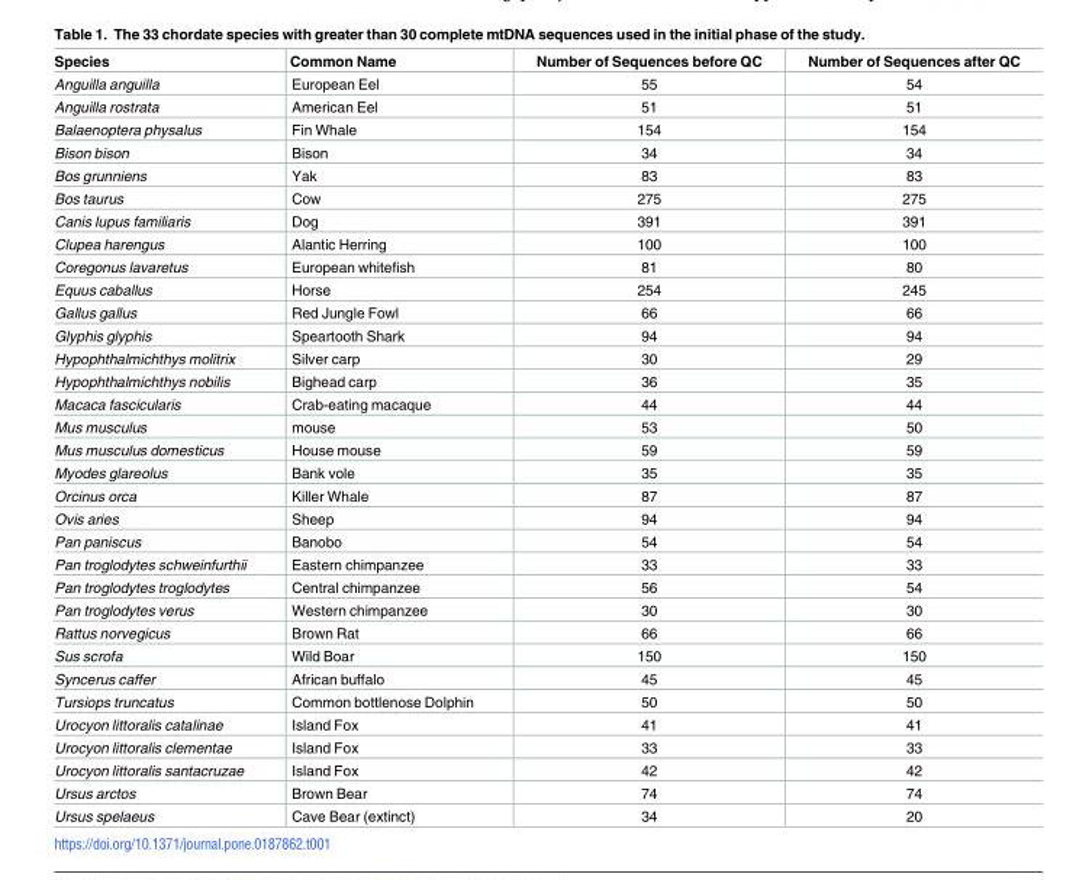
<table><thead><tr><td>Species</td><td>Common Name</td><td>Number of Sequences before QC</td><td>Number of Sequences after QC</td></tr></thead><tbody><tr><td>Anguilla anguilla</td><td>European Eel</td><td>55</td><td>54</td></tr><tr><td>Anguilla rostrata</td><td>American Eel</td><td>51</td><td>51</td></tr><tr><td>Balaenoptera physalus</td><td>Fin Whale</td><td>154</td><td>154</td></tr><tr><td>Bison bison</td><td>Bison</td><td>34</td><td>34</td></tr><tr><td>Bos grunniens</td><td>Yak</td><td>83</td><td>83</td></tr><tr><td>Bos taurus</td><td>Cow</td><td>275</td><td>275</td></tr><tr><td>Canis lupus familiaris</td><td>Dog</td><td>391</td><td>391</td></tr><tr><td>Clupea harengus</td><td>Alantic Herring</td><td>100</td><td>100</td></tr><tr><td>Coregonus lavaretus</td><td>European whitefish</td><td>81</td><td>80</td></tr><tr><td>Equus caballus</td><td>Horse</td><td>254</td><td>245</td></tr><tr><td>Gallus gallus</td><td>Red Jungle Fowl</td><td>66</td><td>66</td></tr><tr><td>Glyphis glyphis</td><td>Speartooth Shark</td><td>94</td><td>94</td></tr><tr><td>Hypophthalmichthys molitrix</td><td>Silver carp</td><td>30</td><td>29</td></tr><tr><td>Hypophthalmichthys nobilis</td><td>Bighead carp</td><td>36</td><td>35</td></tr><tr><td>Macaca fascicularis</td><td>Crab-eating macaque</td><td>44</td><td>44</td></tr><tr><td>Mus musculus</td><td>mouse</td><td>53</td><td>50</td></tr><tr><td>Mus musculus domesticus</td><td>House mouse</td><td>59</td><td>59</td></tr><tr><td>Myodes glareolus</td><td>Bank vole</td><td>35</td><td>35</td></tr><tr><td>Orcinus orca</td><td>Killer Whale</td><td>87</td><td>87</td></tr><tr><td>Ovis aries</td><td>Sheep</td><td>94</td><td>94</td></tr><tr><td>Pan paniscus</td><td>Banobo</td><td>54</td><td>54</td></tr><tr><td>Pan troglodytes schweinfurthii</td><td>Eastern chimpanzee</td><td>33</td><td>33</td></tr><tr><td>Pan troglodytes troglodytes</td><td>Central chimpanzee</td><td>56</td><td>54</td></tr><tr><td>Pan troglodytes verus</td><td>Western chimpanzee</td><td>30</td><td>30</td></tr><tr><td>Rattus norvegicus</td><td>Brown Rat</td><td>66</td><td>66</td></tr><tr><td>Sus scrofa</td><td>Wild Boar</td><td>150</td><td>150</td></tr><tr><td>Syncerus caffer</td><td>African buffalo</td><td>45</td><td>45</td></tr><tr><td>Tursiops truncatus</td><td>Common bottlenose Dolphin</td><td>50</td><td>50</td></tr><tr><td>Urocyon littoralis catalinae</td><td>Island Fox</td><td>41</td><td>41</td></tr><tr><td>Urocyon littoralis clementae</td><td>Island Fox</td><td>33</td><td>33</td></tr><tr><td>Urocyon littoralis santacruzae</td><td>Island Fox</td><td>42</td><td>42</td></tr><tr><td>Ursus arctos</td><td>Brown Bear</td><td>74</td><td>74</td></tr><tr><td>Ursus spelaeus</td><td>Cave Bear (extinct)</td><td>34</td><td>20</td></tr></tbody></table>